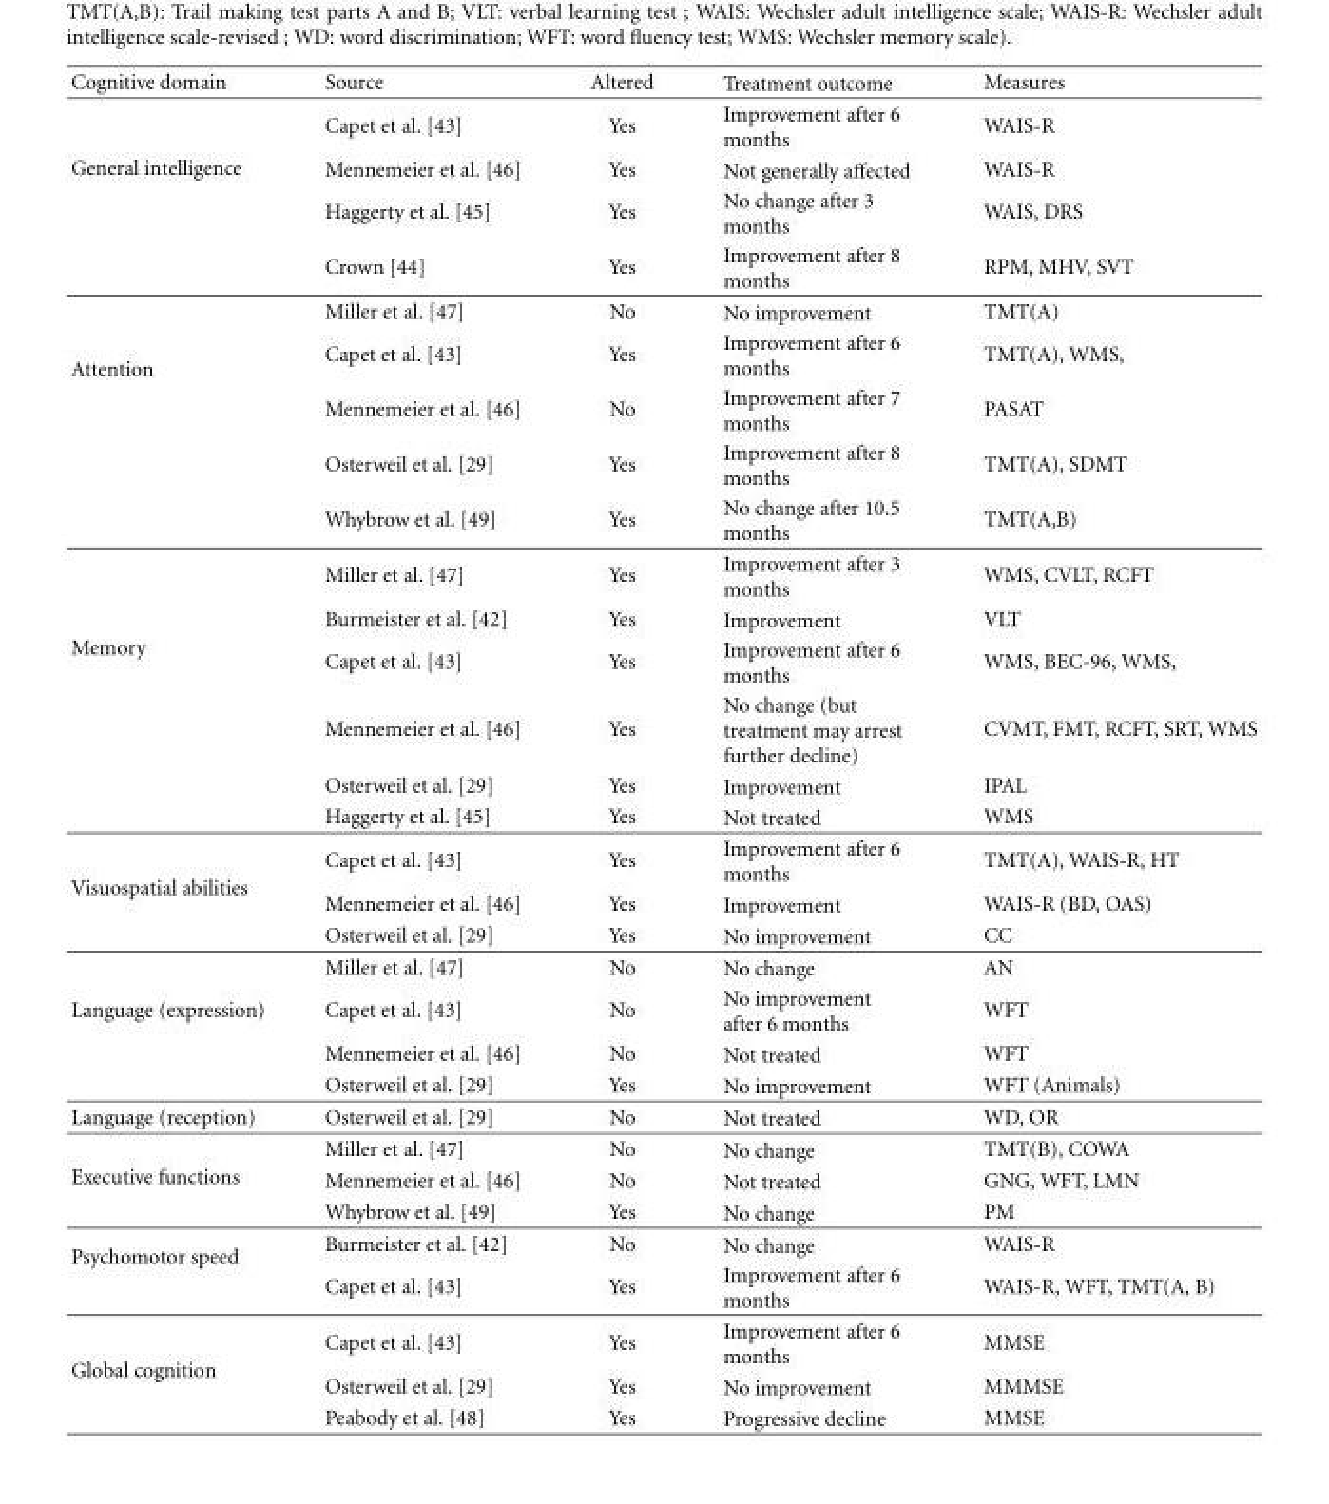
<table><thead><tr><td>Cognitive domain</td><td>Source</td><td>Altered</td><td>Treatment outcome</td><td>Measures</td></tr></thead><tbody><tr><td rowspan="4">General intelligence</td><td>Capet et al. [43]</td><td>Yes</td><td>Improvement after 6 months</td><td>WAIS-R</td></tr><tr><td>Mennemeier et al. [46]</td><td>Yes</td><td>Not generally affected</td><td>WAIS-R</td></tr><tr><td>Haggerty et al. [45]</td><td>Yes</td><td>No change after 3 months</td><td>WAIS, DRS</td></tr><tr><td>Crown [44]</td><td>Yes</td><td>Improvement after 8 months</td><td>RPM, MHV, SVT</td></tr><tr><td rowspan="5">Attention</td><td>Miller et al. [47]</td><td>No</td><td>No improvement</td><td>TMT(A)</td></tr><tr><td>Capet et al. [43]</td><td>Yes</td><td>Improvement after 6 months</td><td>TMT(A), WMS,</td></tr><tr><td>Mennemeier et al. [46]</td><td>No</td><td>Improvement after 7 months</td><td>PASAT</td></tr><tr><td>Osterweil et al. [29]</td><td>Yes</td><td>Improvement after 8 months</td><td>TMT(A), SDMT</td></tr><tr><td>Whybrow et al. [49]</td><td>Yes</td><td>No change after 10.5 months</td><td>TMT(A,B)</td></tr><tr><td rowspan="6">Memory</td><td>Miller et al. [47]</td><td>Yes</td><td>Improvement after 3 months</td><td>WMS, CVLT, RCFT</td></tr><tr><td>Burmeister et al. [42]</td><td>Yes</td><td>Improvement</td><td>VLT</td></tr><tr><td>Capet et al. [43]</td><td>Yes</td><td>Improvement after 6 months</td><td>WMS, BEC-96, WMS,</td></tr><tr><td>Mennemeier et al. [46]</td><td>Yes</td><td>No change (but treatment may arrest further decline)</td><td>CVMT, FMT, RCFT, SRT, WMS</td></tr><tr><td>Osterweil et al. [29]</td><td>Yes</td><td>Improvement</td><td>IPAL</td></tr><tr><td>Haggerty et al. [45]</td><td>Yes</td><td>Not treated</td><td>WMS</td></tr><tr><td rowspan="3">Visuospatial abilities</td><td>Capet et al. [43]</td><td>Yes</td><td>Improvement after 6 months</td><td>TMT(A), WAIS-R, HT</td></tr><tr><td>Mennemeier et al. [46]</td><td>Yes</td><td>Improvement</td><td>WAIS-R (BD, OAS)</td></tr><tr><td>Osterweil et al. [29]</td><td>Yes</td><td>No improvement</td><td>CC</td></tr><tr><td rowspan="4">Language (expression)</td><td>Miller et al. [47]</td><td>No</td><td>No change</td><td>AN</td></tr><tr><td>Capet et al. [43]</td><td>No</td><td>No improvement after 6 months</td><td>WFT</td></tr><tr><td>Mennemeier et al. [46]</td><td>No</td><td>Not treated</td><td>WFT</td></tr><tr><td>Osterweil et al. [29]</td><td>Yes</td><td>No improvement</td><td>WFT (Animals)</td></tr><tr><td>Language (reception)</td><td>Osterweil et al. [29]</td><td>No</td><td>Not treated</td><td>WD, OR</td></tr><tr><td rowspan="3">Executive functions</td><td>Miller et al. [47]</td><td>No</td><td>No change</td><td>TMT(B), COWA</td></tr><tr><td>Mennemeier et al. [46]</td><td>No</td><td>Not treated</td><td>GNG, WFT, LMN</td></tr><tr><td>Whybrow et al. [49]</td><td>Yes</td><td>No change</td><td>PM</td></tr><tr><td rowspan="2">Psychomotor speed</td><td>Burmeister et al. [42]</td><td>No</td><td>No change</td><td>WAIS-R</td></tr><tr><td>Capet et al. [43]</td><td>Yes</td><td>Improvement after 6 months</td><td>WAIS-R, WFT, TMT(A, B)</td></tr><tr><td rowspan="3">Global cognition</td><td>Capet et al. [43]</td><td>Yes</td><td>Improvement after 6 months</td><td>MMSE</td></tr><tr><td>Osterweil et al. [29]</td><td>Yes</td><td>No improvement</td><td>MMMSE</td></tr><tr><td>Peabody et al. [48]</td><td>Yes</td><td>Progressive decline</td><td>MMSE</td></tr></tbody></table>